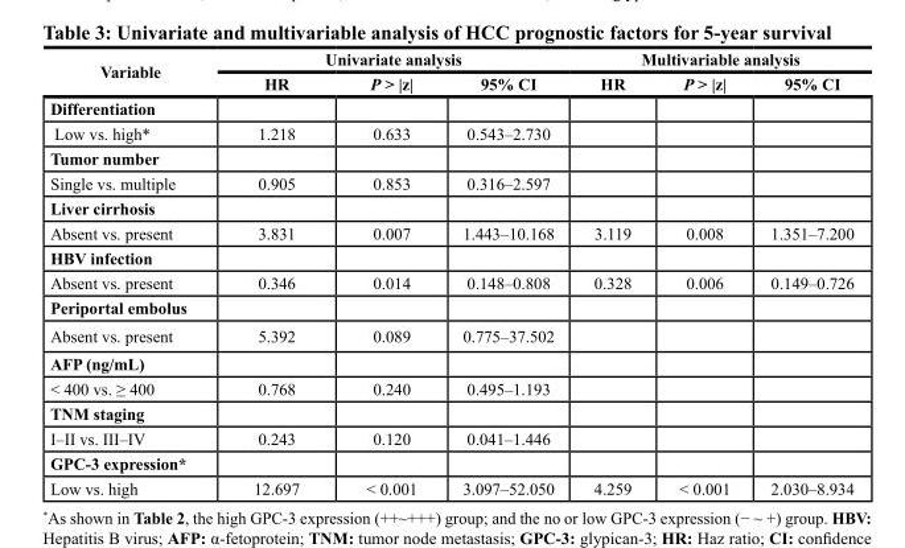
<table><thead><tr><td rowspan="2">Variable</td><td colspan="3">Univariate analysis</td><td colspan="3">Multivariable analysis</td></tr><tr><td>HR</td><td>P &gt; |z|</td><td>95% CI</td><td>HR</td><td>P &gt; |z|</td><td>95% CI</td></tr></thead><tbody><tr><td colspan="7">Differentiation</td></tr><tr><td>Low vs. high*</td><td>1.218</td><td>0.633</td><td>0.543–2.730</td><td></td><td></td><td></td></tr><tr><td colspan="7">Tumor number</td></tr><tr><td>Single vs. multiple</td><td>0.905</td><td>0.853</td><td>0.316–2.597</td><td></td><td></td><td></td></tr><tr><td colspan="7">Liver cirrhosis</td></tr><tr><td>Absent vs. present</td><td>3.831</td><td>0.007</td><td>1.443–10.168</td><td>3.119</td><td>0.008</td><td>1.351–7.200</td></tr><tr><td colspan="7">HBV infection</td></tr><tr><td>Absent vs. present</td><td>0.346</td><td>0.014</td><td>0.148–0.808</td><td>0.328</td><td>0.006</td><td>0.149–0.726</td></tr><tr><td colspan="7">Periportal embolus</td></tr><tr><td>Absent vs. present</td><td>5.392</td><td>0.089</td><td>0.775–37.502</td><td></td><td></td><td></td></tr><tr><td colspan="7">AFP (ng/mL)</td></tr><tr><td>&lt; 400 vs. ≥ 400</td><td>0.768</td><td>0.240</td><td>0.495–1.193</td><td></td><td></td><td></td></tr><tr><td colspan="7">TNM staging</td></tr><tr><td>I–II vs. III–IV</td><td>0.243</td><td>0.120</td><td>0.041–1.446</td><td></td><td></td><td></td></tr><tr><td colspan="7">GPC-3 expression*</td></tr><tr><td>Low vs. high</td><td>12.697</td><td>&lt; 0.001</td><td>3.097–52.050</td><td>4.259</td><td>&lt; 0.001</td><td>2.030–8.934</td></tr></tbody></table>